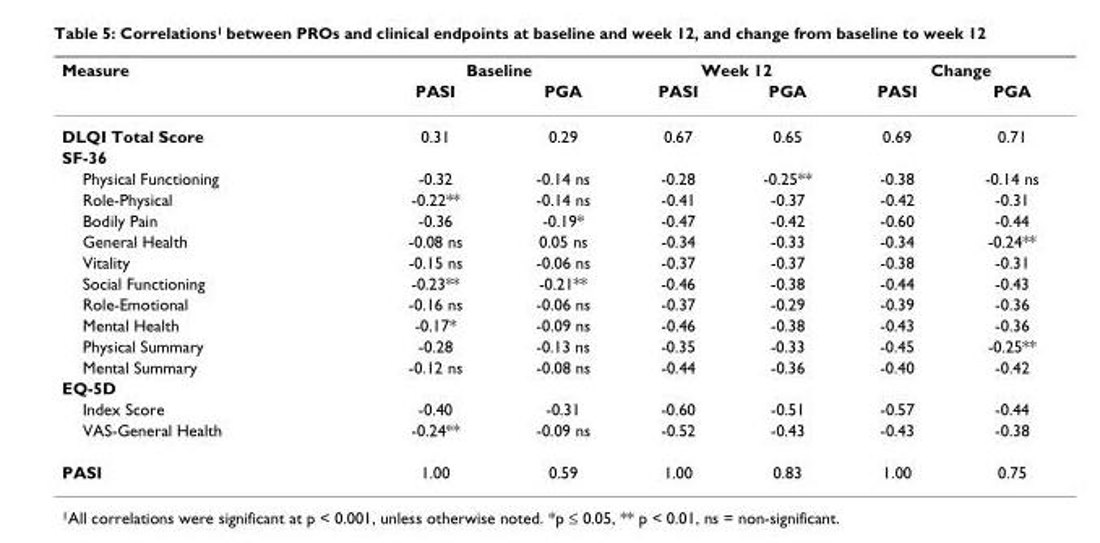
<table><thead><tr><td rowspan="2">Measure</td><td colspan="2">Baseline</td><td colspan="2">Week 12</td><td colspan="2">Change</td></tr><tr><td>PASI</td><td>PGA</td><td>PASI</td><td>PGA</td><td>PASI</td><td>PGA</td></tr></thead><tbody><tr><td>DLQI Total Score</td><td>0.31</td><td>0.29</td><td>0.67</td><td>0.65</td><td>0.69</td><td>0.71</td></tr><tr><td colspan="7">SF-36</td></tr><tr><td>Physical Functioning</td><td>-0.32</td><td>-0.14 ns</td><td>-0.28</td><td>-0.25**</td><td>-0.38</td><td>-0.14 ns</td></tr><tr><td>Role-Physical</td><td>-0.22**</td><td>-0.14 ns</td><td>-0.41</td><td>-0.37</td><td>-0.42</td><td>-0.31</td></tr><tr><td>Bodily Pain</td><td>-0.36</td><td>-0.19*</td><td>-0.47</td><td>-0.42</td><td>-0.60</td><td>-0.44</td></tr><tr><td>General Health</td><td>-0.08 ns</td><td>0.05 ns</td><td>-0.34</td><td>-0.33</td><td>-0.34</td><td>-0.24**</td></tr><tr><td>Vitality</td><td>-0.15 ns</td><td>-0.06 ns</td><td>-0.37</td><td>-0.37</td><td>-0.38</td><td>-0.31</td></tr><tr><td>Social Functioning</td><td>-0.23**</td><td>-0.21**</td><td>-0.46</td><td>-0.38</td><td>-0.44</td><td>-0.43</td></tr><tr><td>Role-Emotional</td><td>-0.16 ns</td><td>-0.06 ns</td><td>-0.37</td><td>-0.29</td><td>-0.39</td><td>-0.36</td></tr><tr><td>Mental Health</td><td>-0.17*</td><td>-0.09 ns</td><td>-0.46</td><td>-0.38</td><td>-0.43</td><td>-0.36</td></tr><tr><td>Physical Summary</td><td>-0.28</td><td>-0.13 ns</td><td>-0.35</td><td>-0.33</td><td>-0.45</td><td>-0.25**</td></tr><tr><td>Mental Summary</td><td>-0.12 ns</td><td>-0.08 ns</td><td>-0.44</td><td>-0.36</td><td>-0.40</td><td>-0.42</td></tr><tr><td colspan="7">EQ-5D</td></tr><tr><td>Index Score</td><td>-0.40</td><td>-0.31</td><td>-0.60</td><td>-0.51</td><td>-0.57</td><td>-0.44</td></tr><tr><td>VAS-General Health</td><td>-0.24**</td><td>-0.09 ns</td><td>-0.52</td><td>-0.43</td><td>-0.43</td><td>-0.38</td></tr><tr><td>PASI</td><td>1.00</td><td>0.59</td><td>1.00</td><td>0.83</td><td>1.00</td><td>0.75</td></tr></tbody></table>